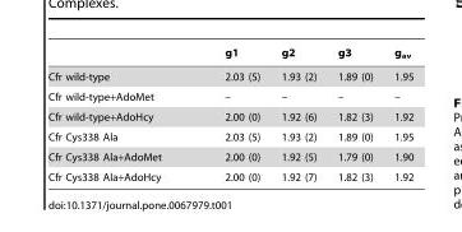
<table><thead><tr><td></td><td>g1</td><td>g2</td><td>g3</td><td>g<sub>av</sub></td></tr></thead><tbody><tr><td>Cfr wild-type</td><td>2.03 (5)</td><td>1.93 (2)</td><td>1.89 (0)</td><td>1.95</td></tr><tr><td>Cfr wild-type+AdoMet</td><td>–</td><td>–</td><td>–</td><td>–</td></tr><tr><td>Cfr wild-type+AdoHcy</td><td>2.00 (0)</td><td>1.92 (6)</td><td>1.82 (3)</td><td>1.92</td></tr><tr><td>Cfr Cys338 Ala</td><td>2.03 (5)</td><td>1.93 (2)</td><td>1.89 (0)</td><td>1.95</td></tr><tr><td>Cfr Cys338 Ala+AdoMet</td><td>2.00 (0)</td><td>1.92 (5)</td><td>1.79 (0)</td><td>1.90</td></tr><tr><td>Cfr Cys338 Ala+AdoHcy</td><td>2.00 (0)</td><td>1.92 (7)</td><td>1.82 (3)</td><td>1.92</td></tr></tbody></table>